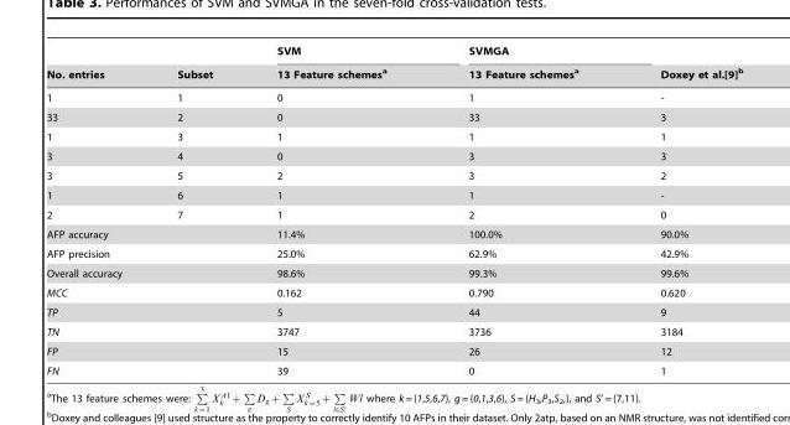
<table><thead><tr><td rowspan="2">No. entries</td><td rowspan="2">Subset</td><td rowspan="2">SVM 13 Feature schemes<sup>a</sup></td><td rowspan="2">SVMGA 13 Feature schemes<sup>a</sup></td><td rowspan="2">Doxey et al.[9]b</td></tr><tr></tr></thead><tbody><tr><td>1</td><td>1</td><td>0</td><td>1</td><td>-</td></tr><tr><td>33</td><td>2</td><td>0</td><td>33</td><td>3</td></tr><tr><td>1</td><td>3</td><td>1</td><td>1</td><td>1</td></tr><tr><td>3</td><td>4</td><td>0</td><td>3</td><td>3</td></tr><tr><td>3</td><td>5</td><td>2</td><td>3</td><td>2</td></tr><tr><td>1</td><td>6</td><td>1</td><td>1</td><td>-</td></tr><tr><td>2</td><td>7</td><td>1</td><td>2</td><td>0</td></tr><tr><td colspan="2">AFP accuracy</td><td>11.4%</td><td>100.0%</td><td>90.0%</td></tr><tr><td colspan="2">AFP precision</td><td>25.0%</td><td>62.9%</td><td>42.9%</td></tr><tr><td colspan="2">Overall accuracy</td><td>98.6%</td><td>99.3%</td><td>99.6%</td></tr><tr><td colspan="2">MCC</td><td>0.162</td><td>0.790</td><td>0.620</td></tr><tr><td colspan="2">TP</td><td>5</td><td>44</td><td>9</td></tr><tr><td colspan="2">TN</td><td>3747</td><td>3736</td><td>3184</td></tr><tr><td colspan="2">FP</td><td>15</td><td>26</td><td>12</td></tr><tr><td colspan="2">FN</td><td>39</td><td>0</td><td>1</td></tr></tbody></table>